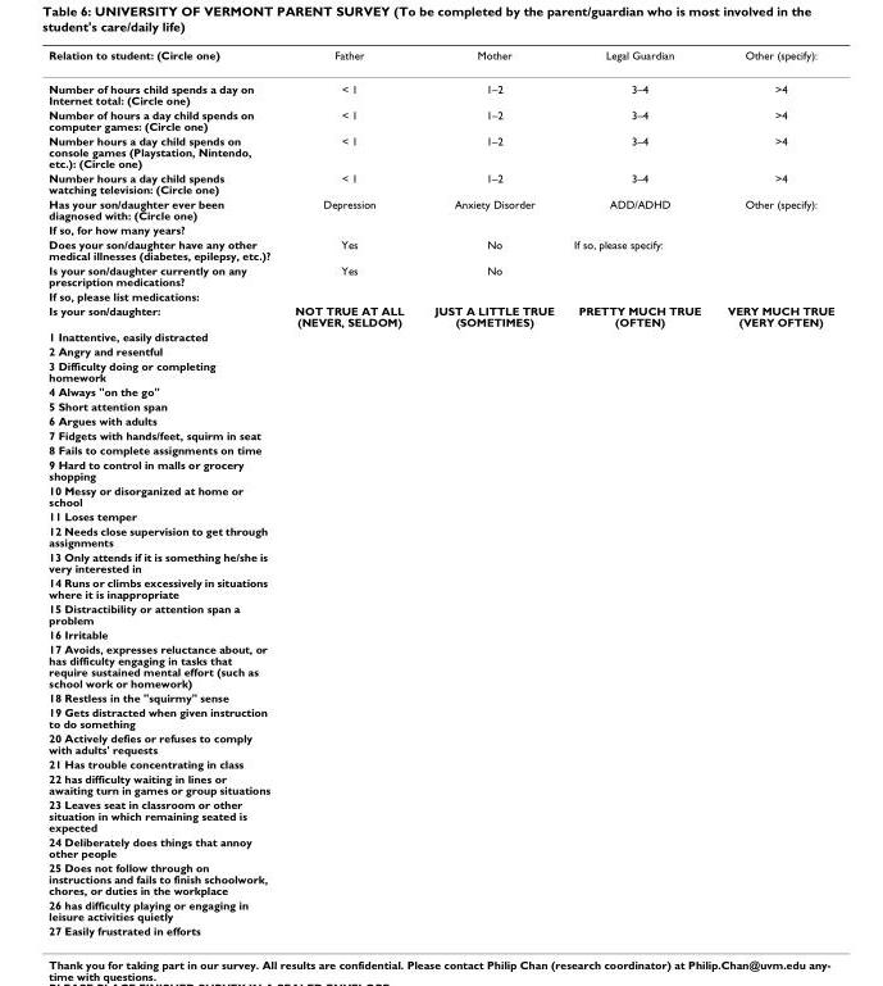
<table><thead><tr><td>Relation to student: (Circle one)</td><td>Father</td><td>Mother</td><td>Legal Guardian</td><td>Other (specify):</td></tr></thead><tbody><tr><td>Number of hours child spends a day on Internet total: (Circle one)</td><td>&lt; 1</td><td>1–2</td><td>3–4</td><td>&gt;4</td></tr><tr><td>Number of hours a day child spends on computer games: (Circle one)</td><td>&lt; 1</td><td>1–2</td><td>3–4</td><td>&gt;4</td></tr><tr><td>Number hours a day child spends on console games (Playstation, Nintendo, etc.): (Circle one)</td><td>&lt; 1</td><td>1–2</td><td>3–4</td><td>&gt;4</td></tr><tr><td>Number hours a day child spends watching television: (Circle one)</td><td>&lt; 1</td><td>1–2</td><td>3–4</td><td>&gt;4</td></tr><tr><td>Has your son/daughter ever been diagnosed with: (Circle one)</td><td>Depression</td><td>Anxiety Disorder</td><td>ADD/ADHD</td><td>Other (specify):</td></tr><tr><td colspan="5">If so, for how many years?</td></tr><tr><td>Does your son/daughter have any other medical illnesses (diabetes, epilepsy, etc.)?</td><td>Yes</td><td>No</td><td colspan="2">If so, please specify:</td></tr><tr><td>Is your son/daughter currently on any prescription medications?</td><td>Yes</td><td>No</td><td></td><td></td></tr><tr><td colspan="5">If so, please list medications:</td></tr><tr><td>Is your son/daughter:</td><td>NOT TRUE AT ALL (NEVER, SELDOM)</td><td>JUST A LITTLE TRUE (SOMETIMES)</td><td>PRETTY MUCH TRUE (OFTEN)</td><td>VERY MUCH TRUE (VERY OFTEN)</td></tr><tr><td colspan="5">1 Inattentive, easily distracted</td></tr><tr><td colspan="5">2 Angry and resentful</td></tr><tr><td colspan="5">3 Difficulty doing or completing homework</td></tr><tr><td colspan="5">4 Always &quot;on the go&quot;</td></tr><tr><td colspan="5">5 Short attention span</td></tr><tr><td colspan="5">6 Argues with adults</td></tr><tr><td colspan="5">7 Fidgets with hands/feet, squirm in seat</td></tr><tr><td colspan="5">8 Fails to complete assignments on time</td></tr><tr><td colspan="5">9 Hard to control in malls or grocery shopping</td></tr><tr><td colspan="5">10 Messy or disorganized at home or school</td></tr><tr><td colspan="5">11 Loses temper</td></tr><tr><td colspan="5">12 Needs close supervision to get through assignments</td></tr><tr><td colspan="5">13 Only attends if it is something he/she is very interested in</td></tr><tr><td colspan="5">14 Runs or climbs excessively in situations where it is inappropriate</td></tr><tr><td colspan="5">15 Distractibility or attention span a problem</td></tr><tr><td colspan="5">16 Irritable</td></tr><tr><td colspan="5">17 Avoids, expresses reluctance about, or has difficulty engaging in tasks that require sustained mental effort (such as school work or homework)</td></tr><tr><td colspan="5">18 Restless in the &quot;squirmy&quot; sense</td></tr><tr><td colspan="5">19 Gets distracted when given instruction to do something</td></tr><tr><td colspan="5">20 Actively defies or refuses to comply with adults&#x27; requests</td></tr><tr><td colspan="5">21 Has trouble concentrating in class</td></tr><tr><td colspan="5">22 has difficulty waiting in lines or awaiting turn in games or group situations</td></tr><tr><td colspan="5">23 Leaves seat in classroom or other situation in which remaining seated is expected</td></tr><tr><td colspan="5">24 Deliberately does things that annoy other people</td></tr><tr><td colspan="5">25 Does not follow through on instructions and fails to finish schoolwork, chores, or duties in the workplace</td></tr><tr><td colspan="5">26 has difficulty playing or engaging in leisure activities quietly</td></tr><tr><td>27 Easily frustrated in efforts</td><td></td><td></td><td></td><td></td></tr></tbody></table>